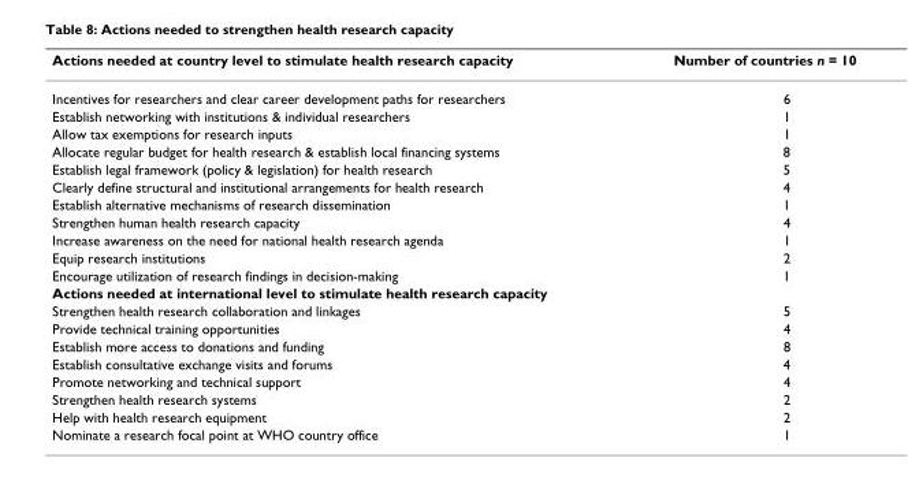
<table><thead><tr><td>Actions needed at country level to stimulate health research capacity</td><td>Number of countries n = 10</td></tr></thead><tbody><tr><td>Incentives for researchers and clear career development paths for researchers</td><td>6</td></tr><tr><td>Establish networking with institutions &amp; individual researchers</td><td>1</td></tr><tr><td>Allow tax exemptions for research inputs</td><td>1</td></tr><tr><td>Allocate regular budget for health research &amp; establish local financing systems</td><td>8</td></tr><tr><td>Establish legal framework (policy &amp; legislation) for health research</td><td>5</td></tr><tr><td>Clearly define structural and institutional arrangements for health research</td><td>4</td></tr><tr><td>Establish alternative mechanisms of research dissemination</td><td>1</td></tr><tr><td>Strengthen human health research capacity</td><td>4</td></tr><tr><td>Increase awareness on the need for national health research agenda</td><td>1</td></tr><tr><td>Equip research institutions</td><td>2</td></tr><tr><td>Encourage utilization of research findings in decision-making</td><td>1</td></tr><tr><td colspan="2">Actions needed at international level to stimulate health research capacity</td></tr><tr><td>Strengthen health research collaboration and linkages</td><td>5</td></tr><tr><td>Provide technical training opportunities</td><td>4</td></tr><tr><td>Establish more access to donations and funding</td><td>8</td></tr><tr><td>Establish consultative exchange visits and forums</td><td>4</td></tr><tr><td>Promote networking and technical support</td><td>4</td></tr><tr><td>Strengthen health research systems</td><td>2</td></tr><tr><td>Help with health research equipment</td><td>2</td></tr><tr><td>Nominate a research focal point at WHO country office</td><td>1</td></tr></tbody></table>